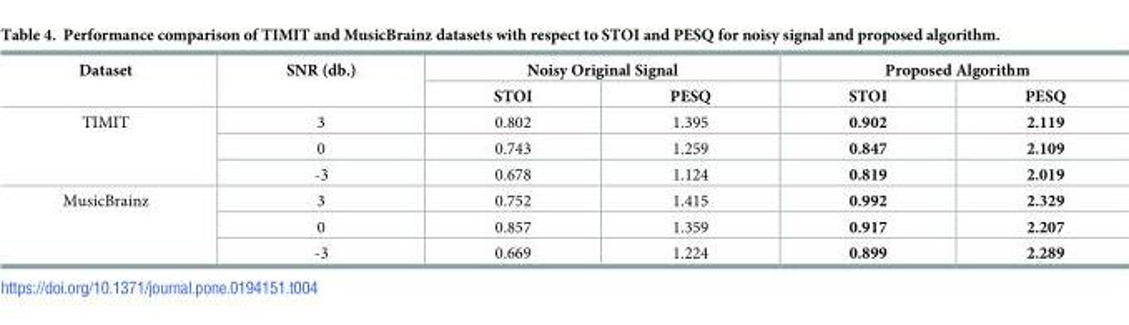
<table><thead><tr><td rowspan="2">Dataset</td><td rowspan="2">SNR (db.)</td><td colspan="2">Noisy Original Signal</td><td colspan="2">Proposed Algorithm</td></tr><tr><td>STOI</td><td>PESQ</td><td>STOI</td><td>PESQ</td></tr></thead><tbody><tr><td rowspan="3">TIMIT</td><td>3</td><td>0.802</td><td>1.395</td><td>0.902</td><td>2.119</td></tr><tr><td>0</td><td>0.743</td><td>1.259</td><td>0.847</td><td>2.109</td></tr><tr><td>-3</td><td>0.678</td><td>1.124</td><td>0.819</td><td>2.019</td></tr><tr><td rowspan="3">MusicBrainz</td><td>3</td><td>0.752</td><td>1.415</td><td>0.992</td><td>2.329</td></tr><tr><td>0</td><td>0.857</td><td>1.359</td><td>0.917</td><td>2.207</td></tr><tr><td>-3</td><td>0.669</td><td>1.224</td><td>0.899</td><td>2.289</td></tr></tbody></table>